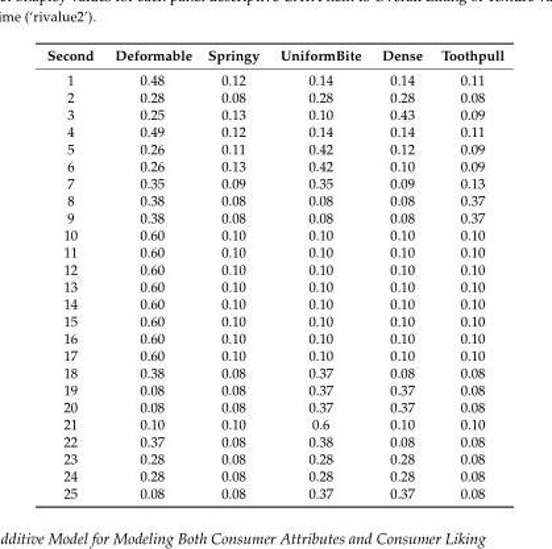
<table><thead><tr><td>Second</td><td>Deformable</td><td>Springy</td><td>UniformBite</td><td>Dense</td><td>Toothpull</td></tr></thead><tbody><tr><td>1</td><td>0.48</td><td>0.12</td><td>0.14</td><td>0.14</td><td>0.11</td></tr><tr><td>2</td><td>0.28</td><td>0.08</td><td>0.28</td><td>0.28</td><td>0.08</td></tr><tr><td>3</td><td>0.25</td><td>0.13</td><td>0.10</td><td>0.43</td><td>0.09</td></tr><tr><td>4</td><td>0.49</td><td>0.12</td><td>0.14</td><td>0.14</td><td>0.11</td></tr><tr><td>5</td><td>0.26</td><td>0.11</td><td>0.42</td><td>0.12</td><td>0.09</td></tr><tr><td>6</td><td>0.26</td><td>0.13</td><td>0.42</td><td>0.10</td><td>0.09</td></tr><tr><td>7</td><td>0.35</td><td>0.09</td><td>0.35</td><td>0.09</td><td>0.13</td></tr><tr><td>8</td><td>0.38</td><td>0.08</td><td>0.08</td><td>0.08</td><td>0.37</td></tr><tr><td>9</td><td>0.38</td><td>0.08</td><td>0.08</td><td>0.08</td><td>0.37</td></tr><tr><td>10</td><td>0.60</td><td>0.10</td><td>0.10</td><td>0.10</td><td>0.10</td></tr><tr><td>11</td><td>0.60</td><td>0.10</td><td>0.10</td><td>0.10</td><td>0.10</td></tr><tr><td>12</td><td>0.60</td><td>0.10</td><td>0.10</td><td>0.10</td><td>0.10</td></tr><tr><td>13</td><td>0.60</td><td>0.10</td><td>0.10</td><td>0.10</td><td>0.10</td></tr><tr><td>14</td><td>0.60</td><td>0.10</td><td>0.10</td><td>0.10</td><td>0.10</td></tr><tr><td>15</td><td>0.60</td><td>0.10</td><td>0.10</td><td>0.10</td><td>0.10</td></tr><tr><td>16</td><td>0.60</td><td>0.10</td><td>0.10</td><td>0.10</td><td>0.10</td></tr><tr><td>17</td><td>0.60</td><td>0.10</td><td>0.10</td><td>0.10</td><td>0.10</td></tr><tr><td>18</td><td>0.38</td><td>0.08</td><td>0.37</td><td>0.08</td><td>0.08</td></tr><tr><td>19</td><td>0.08</td><td>0.08</td><td>0.37</td><td>0.37</td><td>0.08</td></tr><tr><td>20</td><td>0.08</td><td>0.08</td><td>0.37</td><td>0.37</td><td>0.08</td></tr><tr><td>21</td><td>0.10</td><td>0.10</td><td>0.6</td><td>0.10</td><td>0.10</td></tr><tr><td>22</td><td>0.37</td><td>0.08</td><td>0.38</td><td>0.08</td><td>0.08</td></tr><tr><td>23</td><td>0.28</td><td>0.08</td><td>0.28</td><td>0.28</td><td>0.08</td></tr><tr><td>24</td><td>0.28</td><td>0.08</td><td>0.28</td><td>0.28</td><td>0.08</td></tr><tr><td>25</td><td>0.08</td><td>0.08</td><td>0.37</td><td>0.37</td><td>0.08</td></tr></tbody></table>